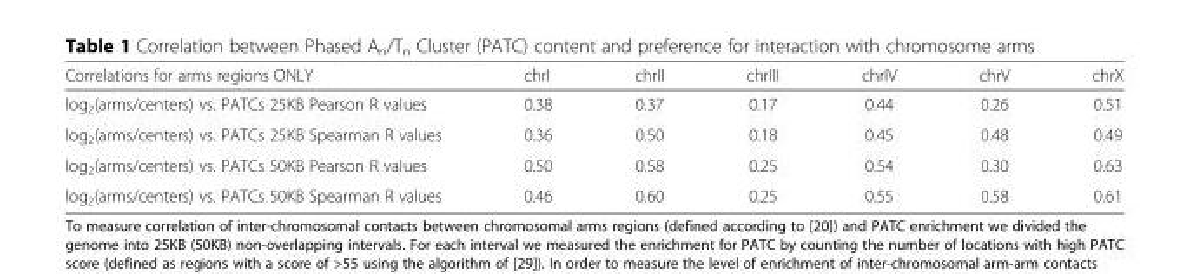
<table><thead><tr><td>Correlations for arms regions ONLY</td><td>chrI</td><td>chrII</td><td>chrIII</td><td>chrIV</td><td>chrV</td><td>chrX</td></tr></thead><tbody><tr><td>log<sub>2</sub>(arms/centers) vs. PATCs 25KB Pearson R values</td><td>0.38</td><td>0.37</td><td>0.17</td><td>0.44</td><td>0.26</td><td>0.51</td></tr><tr><td>log<sub>2</sub>(arms/centers) vs. PATCs 25KB Spearman R values</td><td>0.36</td><td>0.50</td><td>0.18</td><td>0.45</td><td>0.48</td><td>0.49</td></tr><tr><td>log<sub>2</sub>(arms/centers) vs. PATCs 50KB Pearson R values</td><td>0.50</td><td>0.58</td><td>0.25</td><td>0.54</td><td>0.30</td><td>0.63</td></tr><tr><td>log<sub>2</sub>(arms/centers) vs. PATCs 50KB Spearman R values</td><td>0.46</td><td>0.60</td><td>0.25</td><td>0.55</td><td>0.58</td><td>0.61</td></tr></tbody></table>